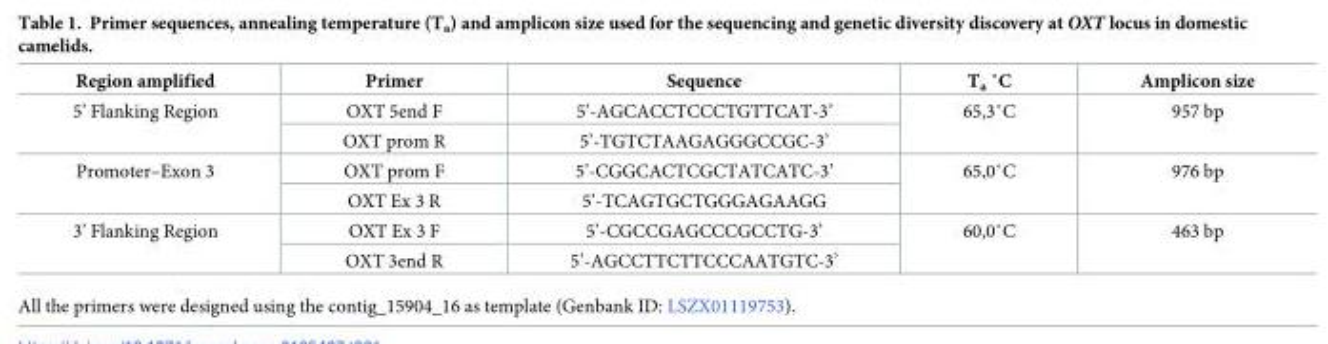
<table><thead><tr><td>Region amplified</td><td>Primer</td><td>Sequence</td><td>Ta ˚C</td><td>Amplicon size</td></tr></thead><tbody><tr><td rowspan="2">5’ Flanking Region</td><td>OXT 5end F</td><td>5’-AGCACCTCCCTGTTCAT-3’</td><td rowspan="2">65,3˚C</td><td rowspan="2">957 bp</td></tr><tr><td>OXT prom R</td><td>5’-TGTCTAAGAGGGCCGC-3’</td></tr><tr><td rowspan="2">Promoter–Exon 3</td><td>OXT prom F</td><td>5’-CGGCACTCGCTATCATC-3’</td><td rowspan="2">65,0˚C</td><td rowspan="2">976 bp</td></tr><tr><td>OXT Ex 3 R</td><td>5’-TCAGTGCTGGGAGAAGG</td></tr><tr><td rowspan="2">3’ Flanking Region</td><td>OXT Ex 3 F</td><td>5’-CGCCGAGCCCGCCTG-3’</td><td rowspan="2">60,0˚C</td><td rowspan="2">463 bp</td></tr><tr><td>OXT 3end R</td><td>5’-AGCCTTCTTCCCAATGTC-3’</td></tr></tbody></table>